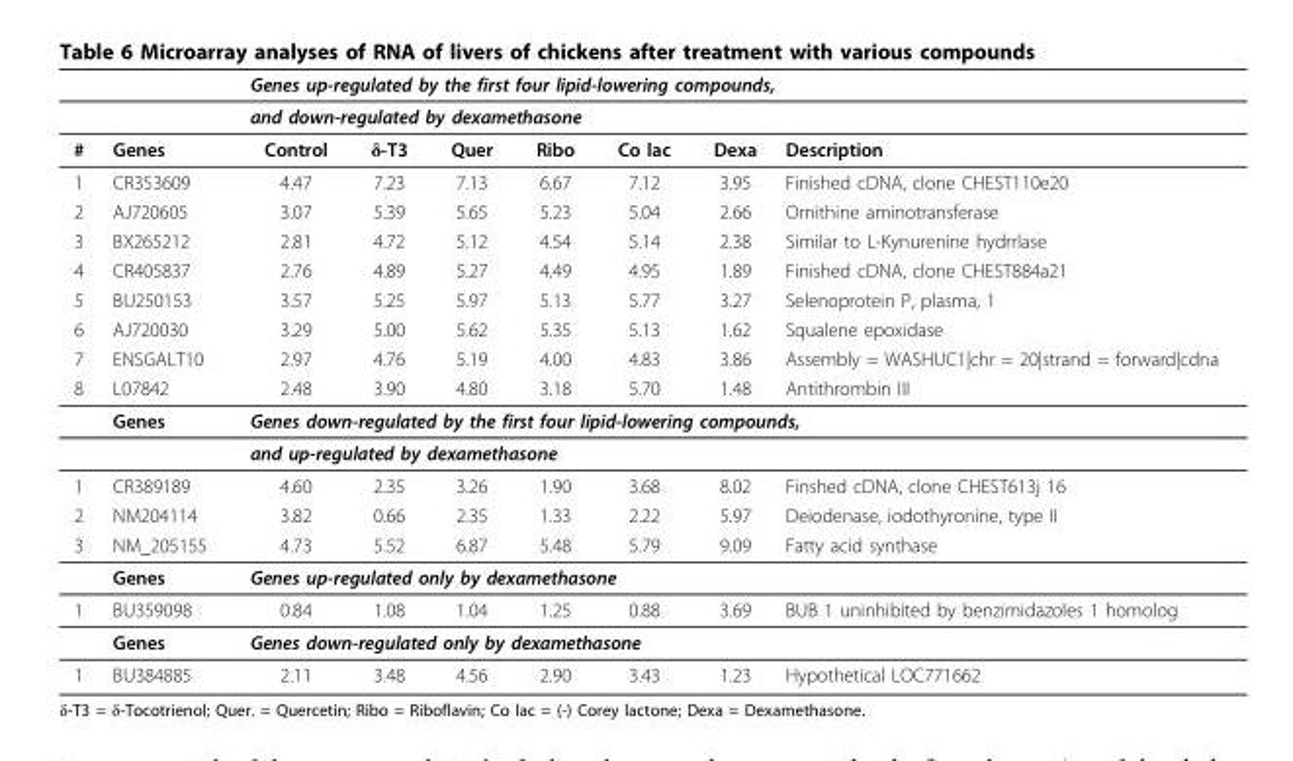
<table><thead><tr><td rowspan="3">#</td><td rowspan="3">Genes</td><td colspan="7">Genes up-regulated by the first four lipid-lowering compounds,</td></tr><tr><td colspan="6">and down-regulated by dexamethasone</td><td rowspan="2">Description</td></tr><tr><td>Control</td><td>δ-T3</td><td>Quer</td><td>Ribo</td><td>Co lac</td><td>Dexa</td></tr></thead><tbody><tr><td>1</td><td>CR353609</td><td>4.47</td><td>7.23</td><td>7.13</td><td>6.67</td><td>7.12</td><td>3.95</td><td>Finished cDNA, clone CHEST110e20</td></tr><tr><td>2</td><td>AJ720605</td><td>3.07</td><td>5.39</td><td>5.65</td><td>5.23</td><td>5.04</td><td>2.66</td><td>Ornithine aminotransferase</td></tr><tr><td>3</td><td>BX265212</td><td>2.81</td><td>4.72</td><td>5.12</td><td>4.54</td><td>5.14</td><td>2.38</td><td>Similar to L-Kynurenine hydrrlase</td></tr><tr><td>4</td><td>CR405837</td><td>2.76</td><td>4.89</td><td>5.27</td><td>4.49</td><td>4.95</td><td>1.89</td><td>Finished cDNA, clone CHEST884a21</td></tr><tr><td>5</td><td>BU250153</td><td>3.57</td><td>5.25</td><td>5.97</td><td>5.13</td><td>5.77</td><td>3.27</td><td>Selenoprotein P, plasma, 1</td></tr><tr><td>6</td><td>AJ720030</td><td>3.29</td><td>5.00</td><td>5.62</td><td>5.35</td><td>5.13</td><td>1.62</td><td>Squalene epoxidase</td></tr><tr><td>7</td><td>ENSGALT10</td><td>2.97</td><td>4.76</td><td>5.19</td><td>4.00</td><td>4.83</td><td>3.86</td><td>Assembly = WASHUC1|chr = 20|strand = forward|cdna</td></tr><tr><td rowspan="3">8</td><td>L07842</td><td>2.48</td><td>3.90</td><td>4.80</td><td>3.18</td><td>5.70</td><td>1.48</td><td>Antithrombin III</td></tr><tr><td>Genes</td><td colspan="7">Genes down-regulated by the first four lipid-lowering compounds,</td></tr><tr><td></td><td colspan="6">and up-regulated by dexamethasone</td><td></td></tr><tr><td>1</td><td>CR389189</td><td>4.60</td><td>2.35</td><td>3.26</td><td>1.90</td><td>3.68</td><td>8.02</td><td>Finshed cDNA, clone CHEST613j 16</td></tr><tr><td>2</td><td>NM204114</td><td>3.82</td><td>0.66</td><td>2.35</td><td>1.33</td><td>2.22</td><td>5.97</td><td>Deiodenase, iodothyronine, type II</td></tr><tr><td rowspan="2">3</td><td>NM_205155</td><td>4.73</td><td>5.52</td><td>6.87</td><td>5.48</td><td>5.79</td><td>9.09</td><td>Fatty acid synthase</td></tr><tr><td>Genes</td><td colspan="7">Genes up-regulated only by dexamethasone</td></tr><tr><td rowspan="2">1</td><td>BU359098</td><td>0.84</td><td>1.08</td><td>1.04</td><td>1.25</td><td>0.88</td><td>3.69</td><td>BUB 1 uninhibited by benzimidazoles 1 homolog</td></tr><tr><td>Genes</td><td colspan="7">Genes down-regulated only by dexamethasone</td></tr><tr><td>1</td><td>BU384885</td><td>2.11</td><td>3.48</td><td>4.56</td><td>2.90</td><td>3.43</td><td>1.23</td><td>Hypothetical LOC771662</td></tr></tbody></table>